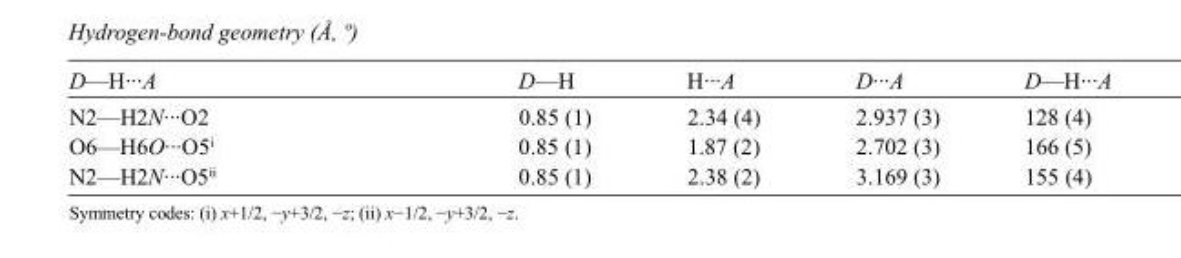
<table><tbody><tr><td>D—H···A</td><td>D—H</td><td>H···A</td><td>D···A</td><td>D—H···A</td></tr><tr><td>N2—H2N···O2</td><td>0.85 (1)</td><td>2.34 (4)</td><td>2.937 (3)</td><td>128 (4)</td></tr><tr><td>O6—H6O···O5<sup>i</sup></td><td>0.85 (1)</td><td>1.87 (2)</td><td>2.702 (3)</td><td>166 (5)</td></tr><tr><td>N2—H2N···O5<sup>ii</sup></td><td>0.85 (1)</td><td>2.38 (2)</td><td>3.169 (3)</td><td>155 (4)</td></tr></tbody></table>